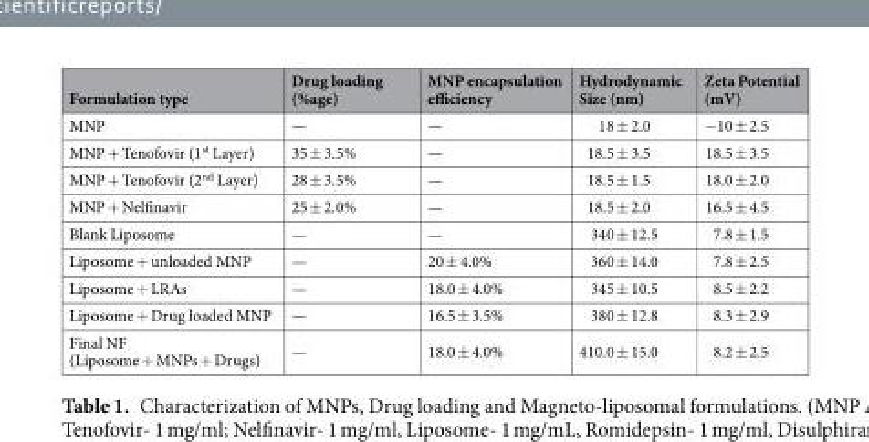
<table><thead><tr><td>Formulation type</td><td>Drug loading (%age)</td><td>MNP encapsulation efficiency</td><td>Hydrodynamic Size (nm)</td><td>Zeta Potential (mV)</td></tr></thead><tbody><tr><td>MNP</td><td>—</td><td>—</td><td>18 ± 2.0</td><td>−10 ± 2.5</td></tr><tr><td>MNP + Tenofovir (1<sup>st</sup> Layer)</td><td>35 ± 3.5%</td><td>—</td><td>18.5 ± 3.5</td><td>18.5 ± 3.5</td></tr><tr><td>MNP + Tenofovir (2<sup>nd</sup> Layer)</td><td>28 ± 3.5%</td><td>—</td><td>18.5 ± 1.5</td><td>18.0 ± 2.0</td></tr><tr><td>MNP + Nelfinavir</td><td>25 ± 2.0%</td><td>—</td><td>18.5 ± 2.0</td><td>16.5 ± 4.5</td></tr><tr><td>Blank Liposome</td><td>—</td><td>—</td><td>340 ± 12.5</td><td>7.8 ± 1.5</td></tr><tr><td>Liposome + unloaded MNP</td><td>—</td><td>20 ± 4.0%</td><td>360 ± 14.0</td><td>7.8 ± 2.5</td></tr><tr><td>Liposome + LRAs</td><td>—</td><td>18.0 ± 4.0%</td><td>345 ± 10.5</td><td>8.5 ± 2.2</td></tr><tr><td>Liposome + Drug loaded MNP</td><td>—</td><td>16.5 ± 3.5%</td><td>380 ± 12.8</td><td>8.3 ± 2.9</td></tr><tr><td>Final NF (Liposome + MNPs + Drugs)</td><td>—</td><td>18.0 ± 4.0%</td><td>410.0 ± 15.0</td><td>8.2 ± 2.5</td></tr></tbody></table>